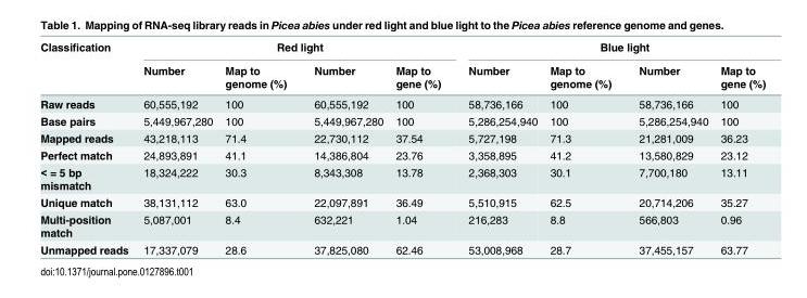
<table><thead><tr><td rowspan="2">Classification</td><td colspan="4">Red light</td><td colspan="4">Blue light</td></tr><tr><td>Number</td><td>Map to genome (%)</td><td>Number</td><td>Map to gene (%)</td><td>Number</td><td>Map to genome (%)</td><td>Number</td><td>Map to gene (%)</td></tr></thead><tbody><tr><td>Raw reads</td><td>60,555,192</td><td>100</td><td>60,555,192</td><td>100</td><td>58,736,166</td><td>100</td><td>58,736,166</td><td>100</td></tr><tr><td>Base pairs</td><td>5,449,967,280</td><td>100</td><td>5,449,967,280</td><td>100</td><td>5,286,254,940</td><td>100</td><td>5,286,254,940</td><td>100</td></tr><tr><td>Mapped reads</td><td>43,218,113</td><td>71.4</td><td>22,730,112</td><td>37.54</td><td>5,727,198</td><td>71.3</td><td>21,281,009</td><td>36.23</td></tr><tr><td>Perfect match</td><td>24,893,891</td><td>41.1</td><td>14,386,804</td><td>23.76</td><td>3,358,895</td><td>41.2</td><td>13,580,829</td><td>23.12</td></tr><tr><td>&lt; = 5 bp mismatch</td><td>18,324,222</td><td>30.3</td><td>8,343,308</td><td>13.78</td><td>2,368,303</td><td>30.1</td><td>7,700,180</td><td>13.11</td></tr><tr><td>Unique match</td><td>38,131,112</td><td>63.0</td><td>22,097,891</td><td>36.49</td><td>5,510,915</td><td>62.5</td><td>20,714,206</td><td>35.27</td></tr><tr><td>Multi-position match</td><td>5,087,001</td><td>8.4</td><td>632,221</td><td>1.04</td><td>216,283</td><td>8.8</td><td>566,803</td><td>0.96</td></tr><tr><td>Unmapped reads</td><td>17,337,079</td><td>28.6</td><td>37,825,080</td><td>62.46</td><td>53,008,968</td><td>28.7</td><td>37,455,157</td><td>63.77</td></tr></tbody></table>